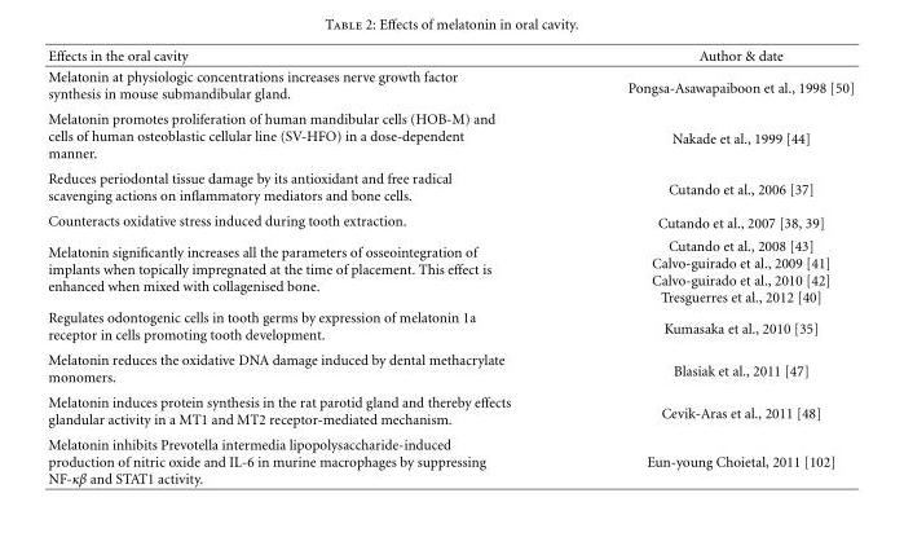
<table><thead><tr><td>Effects in the oral cavity</td><td>Author &amp; date</td></tr></thead><tbody><tr><td>Melatonin at physiologic concentrations increases nerve growth factor synthesis in mouse submandibular gland.</td><td>Pongsa-Asawapaiboon et al., 1998 [50]</td></tr><tr><td>Melatonin promotes proliferation of human mandibular cells (HOB-M) and cells of human osteoblastic cellular line (SV-HFO) in a dose-dependent manner.</td><td>Nakade et al., 1999 [44]</td></tr><tr><td>Reduces periodontal tissue damage by its antioxidant and free radical scavenging actions on inflammatory mediators and bone cells.</td><td>Cutando et al., 2006 [37]</td></tr><tr><td>Counteracts oxidative stress induced during tooth extraction.</td><td>Cutando et al., 2007 [38, 39]</td></tr><tr><td>Melatonin significantly increases all the parameters of osseointegration of implants when topically impregnated at the time of placement. This effect is enhanced when mixed with collagenised bone.</td><td>Cutando et al., 2008 [43] Calvo-guirado et al., 2009 [41] Calvo-guirado et al., 2010 [42] Tresguerres et al., 2012 [40]</td></tr><tr><td>Regulates odontogenic cells in tooth germs by expression of melatonin 1a receptor in cells promoting tooth development.</td><td>Kumasaka et al., 2010 [35]</td></tr><tr><td>Melatonin reduces the oxidative DNA damage induced by dental methacrylate monomers.</td><td>Blasiak et al., 2011 [47]</td></tr><tr><td>Melatonin induces protein synthesis in the rat parotid gland and thereby effects glandular activity in a MT1 and MT2 receptor-mediated mechanism.</td><td>Cevik-Aras et al., 2011 [48]</td></tr><tr><td>Melatonin inhibits Prevotella intermedia lipopolysaccharide-induced production of nitric oxide and IL-6 in murine macrophages by suppressing NF-κβ and STAT1 activity.</td><td>Eun-young Choietal, 2011 [102]</td></tr></tbody></table>